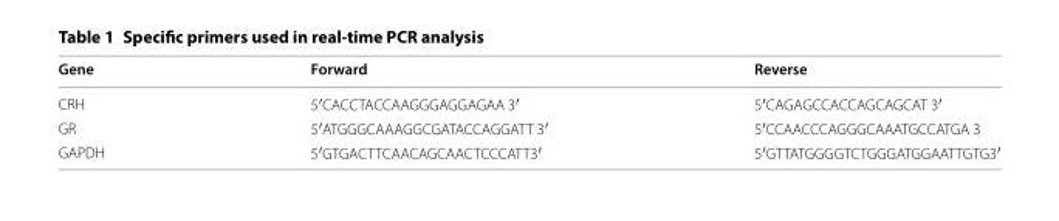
<table><thead><tr><td>Gene</td><td>Forward</td><td>Reverse</td></tr></thead><tbody><tr><td>CRH</td><td>5′CAC CTA CCA AGG GAG GAG AA 3′</td><td>5′CAG AGC CAC CAG CAG CAT 3′</td></tr><tr><td>GR</td><td>5′ATG GGC AAA GGC GAT ACC AGG ATT 3′</td><td>5′CCA ACC CAG GGC AAA TGC CATGA 3</td></tr><tr><td>GAPDH</td><td>5′GTG ACT TCA ACA GCA ACT CCC ATT 3′</td><td>5′GTT ATG GGG TCT GGG ATG GAA TTG TG3′</td></tr></tbody></table>